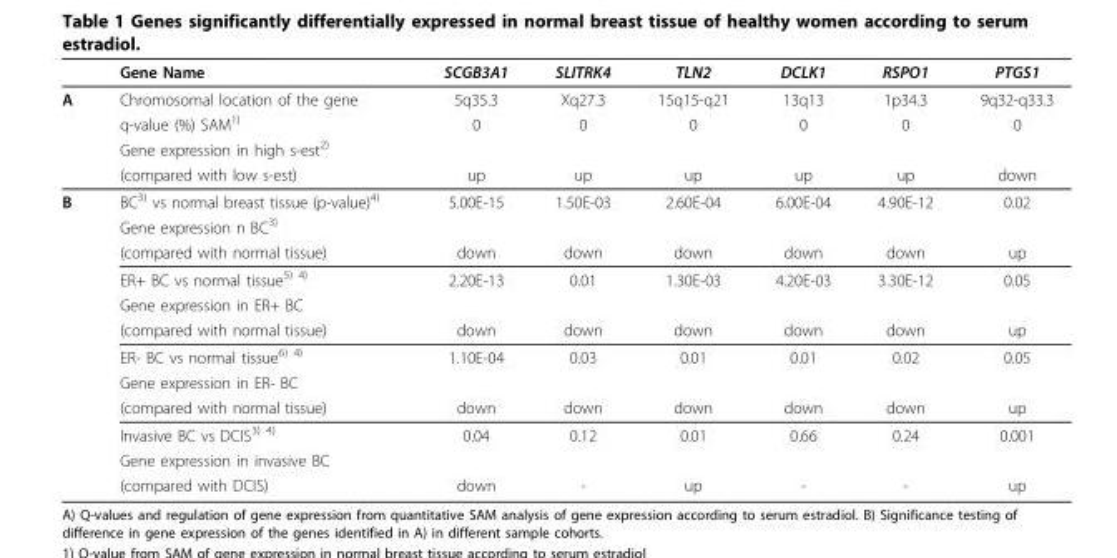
<table><thead><tr><td></td><td>Gene Name</td><td>SCGB3A1</td><td>SLITRK4</td><td>TLN2</td><td>DCLK1</td><td>RSPO1</td><td>PTGS1</td></tr></thead><tbody><tr><td rowspan="4">A</td><td>Chromosomal location of the gene</td><td>5q35.3</td><td>Xq27.3</td><td>15q15-q21</td><td>13q13</td><td>1p34.3</td><td>9q32-q33.3</td></tr><tr><td>q-value (%) SAM<sup>1)</sup></td><td>0</td><td>0</td><td>0</td><td>0</td><td>0</td><td>0</td></tr><tr><td>Gene expression in high s-est<sup>2)</sup></td><td></td><td></td><td></td><td></td><td></td><td></td></tr><tr><td>(compared with low s-est)</td><td>up</td><td>up</td><td>up</td><td>up</td><td>up</td><td>down</td></tr><tr><td rowspan="12">B</td><td>BC<sup>3)</sup> vs normal breast tissue (p-value)<sup>4)</sup></td><td>5.00E-15</td><td>1.50E-03</td><td>2.60E-04</td><td>6.00E-04</td><td>4.90E-12</td><td>0.02</td></tr><tr><td>Gene expression n BC<sup>3)</sup></td><td></td><td></td><td></td><td></td><td></td><td></td></tr><tr><td>(compared with normal tissue)</td><td>down</td><td>down</td><td>down</td><td>down</td><td>down</td><td>up</td></tr><tr><td>ER+ BC vs normal tissue<sup>5) 4)</sup></td><td>2.20E-13</td><td>0.01</td><td>1.30E-03</td><td>4.20E-03</td><td>3.30E-12</td><td>0.05</td></tr><tr><td>Gene expression in ER+ BC</td><td></td><td></td><td></td><td></td><td></td><td></td></tr><tr><td>(compared with normal tissue)</td><td>down</td><td>down</td><td>down</td><td>down</td><td>down</td><td>up</td></tr><tr><td>ER- BC vs normal tissue<sup>6) 4)</sup></td><td>1.10E-04</td><td>0.03</td><td>0.01</td><td>0.01</td><td>0.02</td><td>0.05</td></tr><tr><td>Gene expression in ER- BC</td><td></td><td></td><td></td><td></td><td></td><td></td></tr><tr><td>(compared with normal tissue)</td><td>down</td><td>down</td><td>down</td><td>down</td><td>down</td><td>up</td></tr><tr><td>Invasive BC vs DCIS<sup>3) 4)</sup></td><td>0.04</td><td>0.12</td><td>0.01</td><td>0.66</td><td>0.24</td><td>0.001</td></tr><tr><td>Gene expression in invasive BC</td><td></td><td></td><td></td><td></td><td></td><td></td></tr><tr><td>(compared with DCIS)</td><td>down</td><td>-</td><td>up</td><td>-</td><td>-</td><td>up</td></tr></tbody></table>